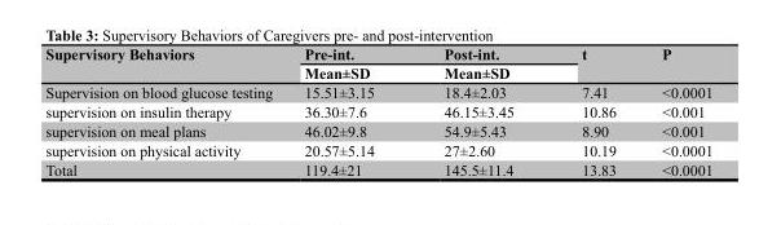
<table><thead><tr><td rowspan="2">Supervisory Behaviors</td><td rowspan="2">Pre-int. Mean±SD</td><td rowspan="2">Post-int. Mean±SD</td><td rowspan="2">t</td><td rowspan="2">P</td></tr><tr></tr></thead><tbody><tr><td>Supervision on blood glucose testing</td><td>15.51±3.15</td><td>18.4±2.03</td><td>7.41</td><td>&lt;0.0001</td></tr><tr><td>supervision on insulin therapy</td><td>36.30±7.6</td><td>46.15±3.45</td><td>10.86</td><td>&lt;0.001</td></tr><tr><td>supervision on meal plans</td><td>46.02±9.8</td><td>54.9±5.43</td><td>8.90</td><td>&lt;0.001</td></tr><tr><td>supervision on physical activity</td><td>20.57±5.14</td><td>27±2.60</td><td>10.19</td><td>&lt;0.0001</td></tr><tr><td>Total</td><td>119.4±21</td><td>145.5±11.4</td><td>13.83</td><td>&lt;0.0001</td></tr></tbody></table>